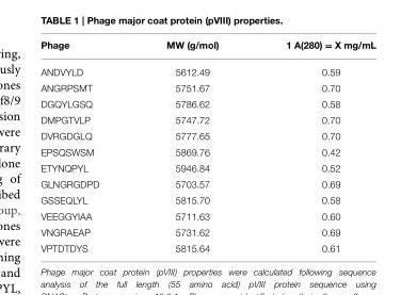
<table><thead><tr><td>Phage</td><td>MW (g/mol)</td><td>1 A(280) = X mg/mL</td></tr></thead><tbody><tr><td>ANDVYLD</td><td>5612.49</td><td>0.59</td></tr><tr><td>ANGRPSMT</td><td>5751.67</td><td>0.70</td></tr><tr><td>DGQYLGSQ</td><td>5786.62</td><td>0.58</td></tr><tr><td>DMPGTVLP</td><td>5747.72</td><td>0.70</td></tr><tr><td>DVRGDGLQ</td><td>5777.65</td><td>0.70</td></tr><tr><td>EPSQSWSM</td><td>5869.76</td><td>0.42</td></tr><tr><td>ETYNQPYL</td><td>5946.84</td><td>0.52</td></tr><tr><td>GLNGRGDPD</td><td>5703.57</td><td>0.69</td></tr><tr><td>GSSEQLYL</td><td>5815.70</td><td>0.58</td></tr><tr><td>VEEGGYIAA</td><td>5711.63</td><td>0.60</td></tr><tr><td>VNGRAEAP</td><td>5731.62</td><td>0.69</td></tr><tr><td>VPTDTDYS</td><td>5815.64</td><td>0.61</td></tr></tbody></table>